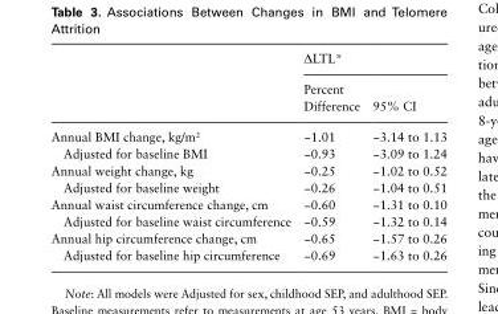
<table><thead><tr><td rowspan="2"></td><td colspan="2">ΔLTL*</td></tr><tr><td>Percent Difference</td><td>95% CI</td></tr></thead><tbody><tr><td>Annual BMI change, kg/m<sup>2</sup></td><td>−1.01</td><td>−3.14 to 1.13</td></tr><tr><td>Adjusted for baseline BMI</td><td>−0.93</td><td>−3.09 to 1.24</td></tr><tr><td>Annual weight change, kg</td><td>−0.25</td><td>−1.02 to 0.52</td></tr><tr><td>Adjusted for baseline weight</td><td>−0.26</td><td>−1.04 to 0.51</td></tr><tr><td>Annual waist circumference change, cm</td><td>−0.60</td><td>−1.31 to 0.10</td></tr><tr><td>Adjusted for baseline waist circumference</td><td>−0.59</td><td>−1.32 to 0.14</td></tr><tr><td>Annual hip circumference change, cm</td><td>−0.65</td><td>−1.57 to 0.26</td></tr><tr><td>Adjusted for baseline hip circumference</td><td>−0.69</td><td>−1.63 to 0.26</td></tr></tbody></table>